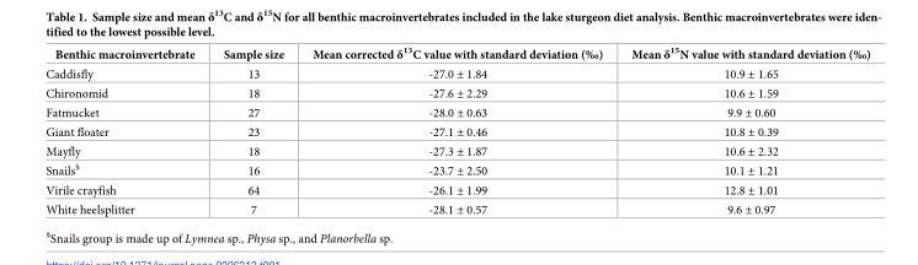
<table><thead><tr><td>Benthic macroinvertebrate</td><td>Sample size</td><td>Mean corrected δ<sup>13</sup>C value with standard deviation (‰)</td><td>Mean δ<sup>15</sup>N value with standard deviation (‰)</td></tr></thead><tbody><tr><td>Caddisfly</td><td>13</td><td>-27.0 ± 1.84</td><td>10.9 ± 1.65</td></tr><tr><td>Chironomid</td><td>18</td><td>-27.6 ± 2.29</td><td>10.6 ± 1.59</td></tr><tr><td>Fatmucket</td><td>27</td><td>-28.0 ± 0.63</td><td>9.9 ± 0.60</td></tr><tr><td>Giant floater</td><td>23</td><td>-27.1 ± 0.46</td><td>10.8 ± 0.39</td></tr><tr><td>Mayfly</td><td>18</td><td>-27.3 ± 1.87</td><td>10.6 ± 2.32</td></tr><tr><td>Snails<sup>§</sup></td><td>16</td><td>-23.7 ± 2.50</td><td>10.1 ± 1.21</td></tr><tr><td>Virile crayfish</td><td>64</td><td>-26.1 ± 1.99</td><td>12.8 ± 1.01</td></tr><tr><td>White heelsplitter</td><td>7</td><td>-28.1 ± 0.57</td><td>9.6 ± 0.97</td></tr></tbody></table>